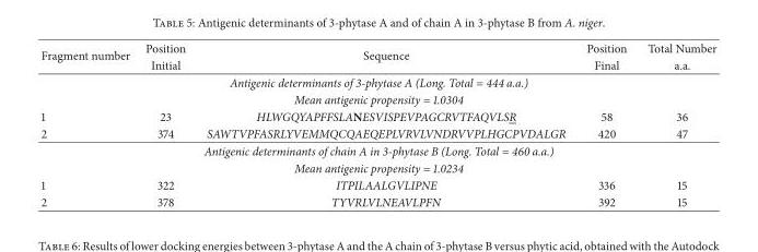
<table><thead><tr><td rowspan="2">Fragment number</td><td rowspan="2">Position Initial</td><td rowspan="2">Sequence</td><td rowspan="2">Position Final</td><td rowspan="2">Total Number a.a.</td></tr><tr></tr></thead><tbody><tr><td colspan="5">Antigenic determinants of 3-phytase A (Long. Total = 444 a.a.)</td></tr><tr><td colspan="5">Mean antigenic propensity = 1.0304</td></tr><tr><td>1</td><td>23</td><td>HLWGQYAPFFSLANESVISPEVPAGCRVTFAQVLSR</td><td>58</td><td>36</td></tr><tr><td>2</td><td>374</td><td>SAWTVPFASRLYVEMMQCQAEQEPLVRVLVNDRVVPLHGCPVDALGR</td><td>420</td><td>47</td></tr><tr><td colspan="5">Antigenic determinants of chain A in 3-phytase B (Long. Total = 460 a.a.)</td></tr><tr><td colspan="5">Mean antigenic propensity = 1.0234</td></tr><tr><td>1</td><td>322</td><td>ITPILAALGVLIPNE</td><td>336</td><td>15</td></tr><tr><td>2</td><td>378</td><td>TYVRLVLNEAVLPFN</td><td>392</td><td>15</td></tr></tbody></table>